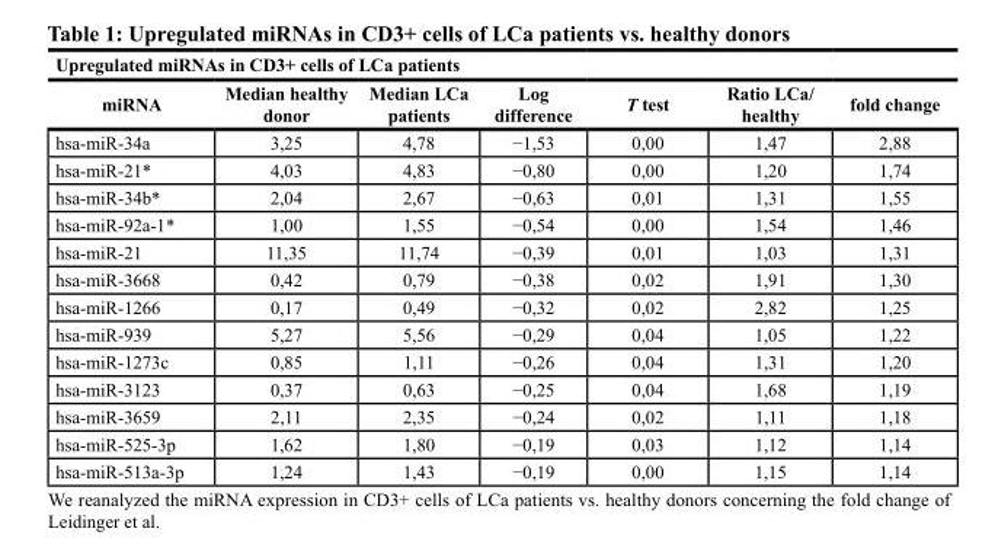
<table><thead><tr><td colspan="7">Upregulated mirNAs in cD3+ cells of Lca patients</td></tr><tr><td>mirNA</td><td>Median healthy donor</td><td>Median Lca patients</td><td>Log difference</td><td>T test</td><td>ratio Lca/ healthy</td><td>fold change</td></tr></thead><tbody><tr><td>hsa-miR-34a</td><td>3,25</td><td>4,78</td><td>−1,53</td><td>0,00</td><td>1,47</td><td>2,88</td></tr><tr><td>hsa-miR-21*</td><td>4,03</td><td>4,83</td><td>−0,80</td><td>0,00</td><td>1,20</td><td>1,74</td></tr><tr><td>hsa-miR-34b*</td><td>2,04</td><td>2,67</td><td>−0,63</td><td>0,01</td><td>1,31</td><td>1,55</td></tr><tr><td>hsa-miR-92a-1*</td><td>1,00</td><td>1,55</td><td>−0,54</td><td>0,00</td><td>1,54</td><td>1,46</td></tr><tr><td>hsa-miR-21</td><td>11,35</td><td>11,74</td><td>−0,39</td><td>0,01</td><td>1,03</td><td>1,31</td></tr><tr><td>hsa-miR-3668</td><td>0,42</td><td>0,79</td><td>−0,38</td><td>0,02</td><td>1,91</td><td>1,30</td></tr><tr><td>hsa-miR-1266</td><td>0,17</td><td>0,49</td><td>−0,32</td><td>0,02</td><td>2,82</td><td>1,25</td></tr><tr><td>hsa-miR-939</td><td>5,27</td><td>5,56</td><td>−0,29</td><td>0,04</td><td>1,05</td><td>1,22</td></tr><tr><td>hsa-miR-1273c</td><td>0,85</td><td>1,11</td><td>−0,26</td><td>0,04</td><td>1,31</td><td>1,20</td></tr><tr><td>hsa-miR-3123</td><td>0,37</td><td>0,63</td><td>−0,25</td><td>0,04</td><td>1,68</td><td>1,19</td></tr><tr><td>hsa-miR-3659</td><td>2,11</td><td>2,35</td><td>−0,24</td><td>0,02</td><td>1,11</td><td>1,18</td></tr><tr><td>hsa-miR-525-3p</td><td>1,62</td><td>1,80</td><td>−0,19</td><td>0,03</td><td>1,12</td><td>1,14</td></tr><tr><td>hsa-miR-513a-3p</td><td>1,24</td><td>1,43</td><td>−0,19</td><td>0,00</td><td>1,15</td><td>1,14</td></tr></tbody></table>